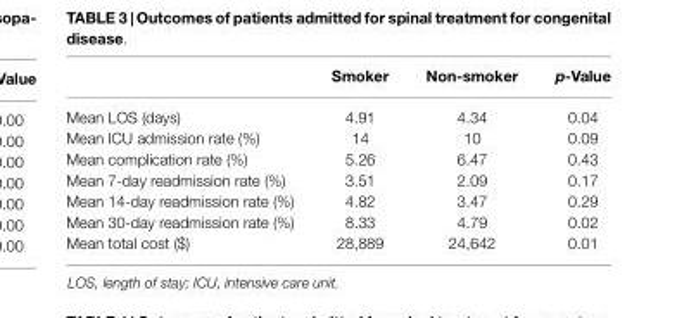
<table><thead><tr><td></td><td>Smoker</td><td>Non-smoker</td><td>p-Value</td></tr></thead><tbody><tr><td>Mean LOS (days)</td><td>4.91</td><td>4.34</td><td>0.04</td></tr><tr><td>Mean ICU admission rate (%)</td><td>14</td><td>10</td><td>0.09</td></tr><tr><td>Mean complication rate (%)</td><td>5.26</td><td>6.47</td><td>0.43</td></tr><tr><td>Mean 7-day readmission rate (%)</td><td>3.51</td><td>2.09</td><td>0.17</td></tr><tr><td>Mean 14-day readmission rate (%)</td><td>4.82</td><td>3.47</td><td>0.29</td></tr><tr><td>Mean 30-day readmission rate (%)</td><td>8.33</td><td>4.79</td><td>0.02</td></tr><tr><td>Mean total cost ($)</td><td>28,889</td><td>24,642</td><td>0.01</td></tr></tbody></table>